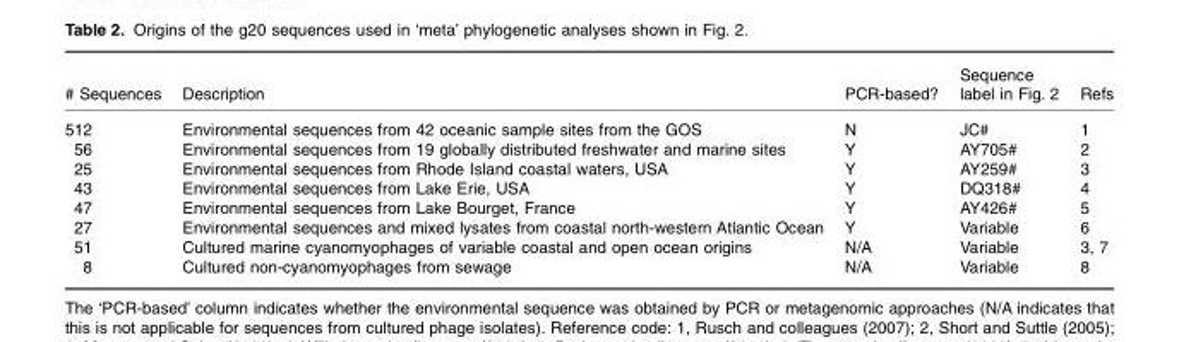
<table><thead><tr><td># Sequences</td><td>Description</td><td>PCR-based?</td><td>Sequence label in Fig. 2</td><td>Refs</td></tr></thead><tbody><tr><td>512</td><td>Environmental sequences from 42 oceanic sample sites from the GOS</td><td>N</td><td>JC#</td><td>1</td></tr><tr><td>56</td><td>Environmental sequences from 19 globally distributed freshwater and marine sites</td><td>Y</td><td>AY705#</td><td>2</td></tr><tr><td>25</td><td>Environmental sequences from Rhode Island coastal waters, USA</td><td>Y</td><td>AY259#</td><td>3</td></tr><tr><td>43</td><td>Environmental sequences from Lake Erie, USA</td><td>Y</td><td>DQ318#</td><td>4</td></tr><tr><td>47</td><td>Environmental sequences from Lake Bourget, France</td><td>Y</td><td>AY426#</td><td>5</td></tr><tr><td>27</td><td>Environmental sequences and mixed lysates from coastal north-western Atlantic Ocean</td><td>Y</td><td>Variable</td><td>6</td></tr><tr><td>51</td><td>Cultured marine cyanomyophages of variable coastal and open ocean origins</td><td>N/A</td><td>Variable</td><td>3, 7</td></tr><tr><td>8</td><td>Cultured non-cyanomyophages from sewage</td><td>N/A</td><td>Variable</td><td>8</td></tr></tbody></table>